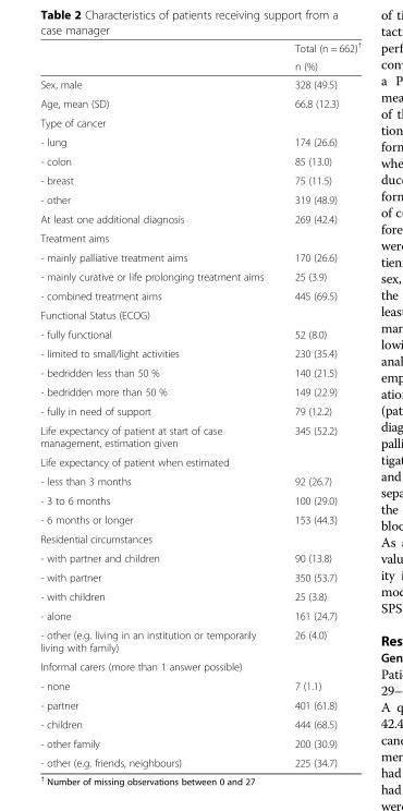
<table><thead><tr><td rowspan="2"></td><td rowspan="2">Total (n = 662)<sup>†</sup> n (%)</td></tr><tr></tr></thead><tbody><tr><td>Sex, male</td><td>328 (49.5)</td></tr><tr><td>Age, mean (SD)</td><td>66.8 (12.3)</td></tr><tr><td colspan="2">Type of cancer</td></tr><tr><td>- lung</td><td>174 (26.6)</td></tr><tr><td>- colon</td><td>85 (13.0)</td></tr><tr><td>- breast</td><td>75 (11.5)</td></tr><tr><td>- other</td><td>319 (48.9)</td></tr><tr><td>At least one additional diagnosis</td><td>269 (42.4)</td></tr><tr><td colspan="2">Treatment aims</td></tr><tr><td>- mainly palliative treatment aims</td><td>170 (26.6)</td></tr><tr><td>- mainly curative or life prolonging treatment aims</td><td>25 (3.9)</td></tr><tr><td>- combined treatment aims</td><td>445 (69.5)</td></tr><tr><td colspan="2">Functional Status (ECOG)</td></tr><tr><td>- fully functional</td><td>52 (8.0)</td></tr><tr><td>- limited to small/light activities</td><td>230 (35.4)</td></tr><tr><td>- bedridden less than 50 %</td><td>140 (21.5)</td></tr><tr><td>- bedridden more than 50 %</td><td>149 (22.9)</td></tr><tr><td>- fully in need of support</td><td>79 (12.2)</td></tr><tr><td>Life expectancy of patient at start of case management, estimation given</td><td>345 (52.2)</td></tr><tr><td colspan="2">Life expectancy of patient when estimated</td></tr><tr><td>- less than 3 months</td><td>92 (26.7)</td></tr><tr><td>- 3 to 6 months</td><td>100 (29.0)</td></tr><tr><td>- 6 months or longer</td><td>153 (44.3)</td></tr><tr><td colspan="2">Residential circumstances</td></tr><tr><td>- with partner and children</td><td>90 (13.8)</td></tr><tr><td>- with partner</td><td>350 (53.7)</td></tr><tr><td>- with children</td><td>25 (3.8)</td></tr><tr><td>- alone</td><td>161 (24.7)</td></tr><tr><td>- other (e.g. living in an institution or temporarily living with family)</td><td>26 (4.0)</td></tr><tr><td colspan="2">Informal carers (more than 1 answer possible)</td></tr><tr><td>- none</td><td>7 (1.1)</td></tr><tr><td>- partner</td><td>401 (61.8)</td></tr><tr><td>- children</td><td>444 (68.5)</td></tr><tr><td>- other family</td><td>200 (30.9)</td></tr><tr><td>- other (e.g. friends, neighbours)</td><td>225 (34.7)</td></tr></tbody></table>